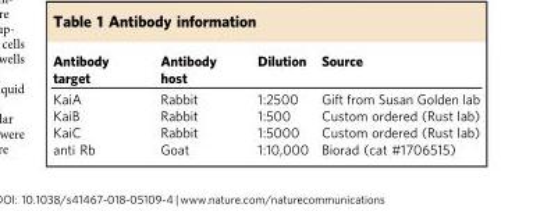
<table><thead><tr><td>Antibody target</td><td>Antibody host</td><td>Dilution</td><td>Source</td></tr></thead><tbody><tr><td>KaiA</td><td>Rabbit</td><td>1:2500</td><td>Gift from Susan Golden lab</td></tr><tr><td>KaiB</td><td>Rabbit</td><td>1:500</td><td>Custom ordered (Rust lab)</td></tr><tr><td>KaiC</td><td>Rabbit</td><td>1:5000</td><td>Custom ordered (Rust lab)</td></tr><tr><td>anti Rb</td><td>Goat</td><td>1:10,000</td><td>Biorad (cat #1706515)</td></tr></tbody></table>